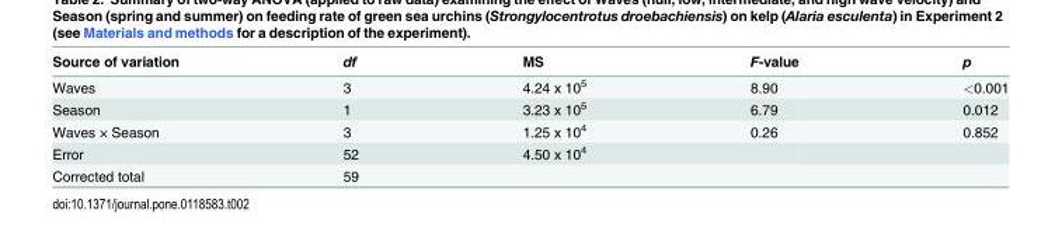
<table><thead><tr><td>Source of variation</td><td>df</td><td>MS</td><td>F-value</td><td>p</td></tr></thead><tbody><tr><td>Waves</td><td>3</td><td>4.24 x 10<sup>5</sup></td><td>8.90</td><td>&lt;0.001</td></tr><tr><td>Season</td><td>1</td><td>3.23 x 10<sup>5</sup></td><td>6.79</td><td>0.012</td></tr><tr><td>Waves × Season</td><td>3</td><td>1.25 x 10<sup>4</sup></td><td>0.26</td><td>0.852</td></tr><tr><td>Error</td><td>52</td><td>4.50 x 10<sup>4</sup></td><td></td><td></td></tr><tr><td>Corrected total</td><td>59</td><td></td><td></td><td></td></tr></tbody></table>